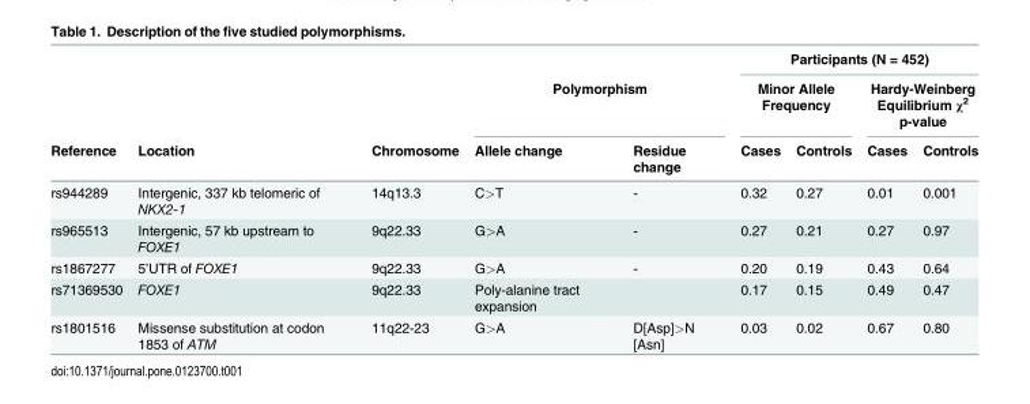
<table><thead><tr><td rowspan="3">Reference</td><td rowspan="3">Location</td><td rowspan="3">Chromosome</td><td></td><td></td><td colspan="4">Participants (N = 452)</td></tr><tr><td colspan="2">Polymorphism</td><td colspan="2">Minor Allele Frequency</td><td colspan="2">Hardy-Weinberg Equilibrium χ<sup>2</sup> p-value</td></tr><tr><td>Allele change</td><td>Residue change</td><td>Cases</td><td>Controls</td><td>Cases</td><td>Controls</td></tr></thead><tbody><tr><td>rs944289</td><td>Intergenic, 337 kb telomeric of NKX2-1</td><td>14q13.3</td><td>C&gt;T</td><td>-</td><td>0.32</td><td>0.27</td><td>0.01</td><td>0.001</td></tr><tr><td>rs965513</td><td>Intergenic, 57 kb upstream to FOXE1</td><td>9q22.33</td><td>G&gt;A</td><td>-</td><td>0.27</td><td>0.21</td><td>0.27</td><td>0.97</td></tr><tr><td>rs1867277</td><td>5’UTR of FOXE1</td><td>9q22.33</td><td>G&gt;A</td><td>-</td><td>0.20</td><td>0.19</td><td>0.43</td><td>0.64</td></tr><tr><td>rs71369530</td><td>FOXE1</td><td>9q22.33</td><td>Poly-alanine tract expansion</td><td></td><td>0.17</td><td>0.15</td><td>0.49</td><td>0.47</td></tr><tr><td>rs1801516</td><td>Missense substitution at codon 1853 of ATM</td><td>11q22-23</td><td>G&gt;A</td><td>D[Asp]&gt;N [Asn]</td><td>0.03</td><td>0.02</td><td>0.67</td><td>0.80</td></tr></tbody></table>